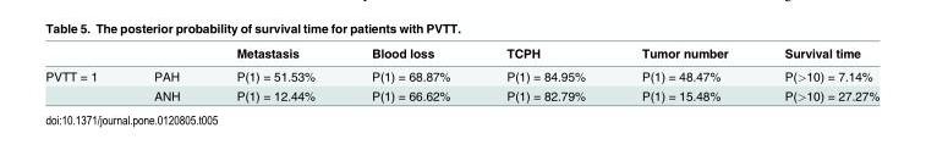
<table><thead><tr><td></td><td></td><td>Metastasis</td><td>Blood loss</td><td>TCPH</td><td>Tumor number</td><td>Survival time</td></tr></thead><tbody><tr><td rowspan="2">PVTT = 1</td><td>PAH</td><td>P(1) = 51.53%</td><td>P(1) = 68.87%</td><td>P(1) = 84.95%</td><td>P(1) = 48.47%</td><td>P(&gt;10) = 7.14%</td></tr><tr><td>ANH</td><td>P(1) = 12.44%</td><td>P(1) = 66.62%</td><td>P(1) = 82.79%</td><td>P(1) = 15.48%</td><td>P(&gt;10) = 27.27%</td></tr></tbody></table>